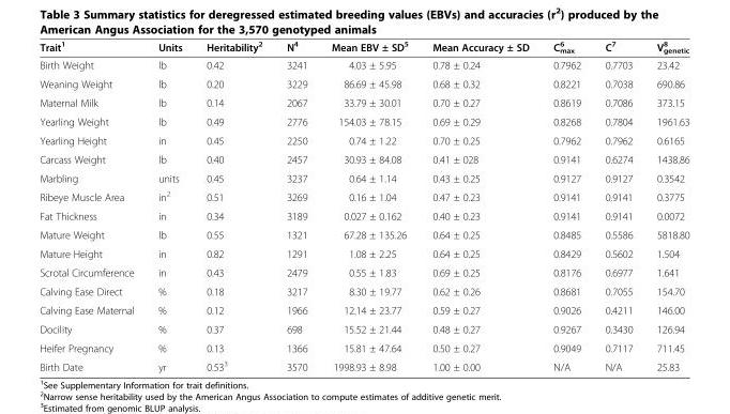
<table><thead><tr><td>Trait<sup>1</sup></td><td>Units</td><td>Heritability<sup>2</sup></td><td>N<sup>4</sup></td><td>Mean EBV ± SD<sup>5</sup></td><td>Mean Accuracy ± SD</td><td>C<sub>max</sub> <sup>6</sup></td><td>C<sup>7</sup></td><td>V<sub>genetic</sub> <sup>8</sup></td></tr></thead><tbody><tr><td>Birth Weight</td><td>lb</td><td>0.42</td><td>3241</td><td>4.03 ± 5.95</td><td>0.78 ± 0.24</td><td>0.7962</td><td>0.7703</td><td>23.42</td></tr><tr><td>Weaning Weight</td><td>lb</td><td>0.20</td><td>3229</td><td>86.69 ± 45.98</td><td>0.68 ± 0.32</td><td>0.8221</td><td>0.7038</td><td>690.86</td></tr><tr><td>Maternal Milk</td><td>lb</td><td>0.14</td><td>2067</td><td>33.79 ± 30.01</td><td>0.70 ± 0.27</td><td>0.8619</td><td>0.7086</td><td>373.15</td></tr><tr><td>Yearling Weight</td><td>lb</td><td>0.49</td><td>2776</td><td>154.03 ± 78.15</td><td>0.69 ± 0.29</td><td>0.8268</td><td>0.7804</td><td>1961.63</td></tr><tr><td>Yearling Height</td><td>in</td><td>0.45</td><td>2250</td><td>0.74 ± 1.22</td><td>0.70 ± 0.25</td><td>0.7962</td><td>0.7962</td><td>0.6165</td></tr><tr><td>Carcass Weight</td><td>lb</td><td>0.40</td><td>2457</td><td>30.93 ± 84.08</td><td>0.41 ± 028</td><td>0.9141</td><td>0.6274</td><td>1438.86</td></tr><tr><td>Marbling</td><td>units</td><td>0.45</td><td>3237</td><td>0.64 ± 1.14</td><td>0.43 ± 0.25</td><td>0.9127</td><td>0.9127</td><td>0.3542</td></tr><tr><td>Ribeye Muscle Area</td><td>in<sup>2</sup></td><td>0.51</td><td>3269</td><td>0.16 ± 1.04</td><td>0.47 ± 0.23</td><td>0.9141</td><td>0.9141</td><td>0.3775</td></tr><tr><td>Fat Thickness</td><td>in</td><td>0.34</td><td>3189</td><td>0.027 ± 0.162</td><td>0.40 ± 0.23</td><td>0.9141</td><td>0.9141</td><td>0.0072</td></tr><tr><td>Mature Weight</td><td>lb</td><td>0.55</td><td>1321</td><td>67.28 ± 135.26</td><td>0.64 ± 0.25</td><td>0.8485</td><td>0.5586</td><td>5818.80</td></tr><tr><td>Mature Height</td><td>in</td><td>0.82</td><td>1291</td><td>1.08 ± 2.25</td><td>0.64 ± 0.25</td><td>0.8429</td><td>0.5602</td><td>1.504</td></tr><tr><td>Scrotal Circumference</td><td>in</td><td>0.43</td><td>2479</td><td>0.55 ± 1.83</td><td>0.69 ± 0.25</td><td>0.8176</td><td>0.6977</td><td>1.641</td></tr><tr><td>Calving Ease Direct</td><td>%</td><td>0.18</td><td>3217</td><td>8.30 ± 19.77</td><td>0.62 ± 0.26</td><td>0.8681</td><td>0.7055</td><td>154.70</td></tr><tr><td>Calving Ease Maternal</td><td>%</td><td>0.12</td><td>1966</td><td>12.14 ± 23.77</td><td>0.59 ± 0.27</td><td>0.9026</td><td>0.4211</td><td>146.00</td></tr><tr><td>Docility</td><td>%</td><td>0.37</td><td>698</td><td>15.52 ± 21.44</td><td>0.48 ± 0.27</td><td>0.9267</td><td>0.3430</td><td>126.94</td></tr><tr><td>Heifer Pregnancy</td><td>%</td><td>0.13</td><td>1366</td><td>15.81 ± 47.64</td><td>0.50 ± 0.27</td><td>0.9049</td><td>0.7117</td><td>711.45</td></tr><tr><td>Birth Date</td><td>yr</td><td>0.53<sup>3</sup></td><td>3570</td><td>1998.93 ± 8.98</td><td>1.00 ± 0.00</td><td>N/A</td><td>N/A</td><td>25.83</td></tr></tbody></table>